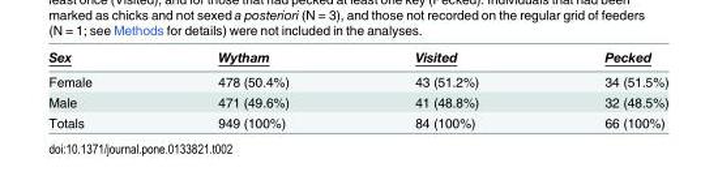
<table><thead><tr><td>Sex</td><td>Wytham</td><td>Visited</td><td>Pecked</td></tr></thead><tbody><tr><td>Female</td><td>478 (50.4%)</td><td>43 (51.2%)</td><td>34 (51.5%)</td></tr><tr><td>Male</td><td>471 (49.6%)</td><td>41 (48.8%)</td><td>32 (48.5%)</td></tr><tr><td>Totals</td><td>949 (100%)</td><td>84 (100%)</td><td>66 (100%)</td></tr></tbody></table>